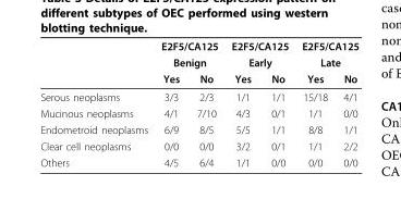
<table><thead><tr><td rowspan="3"></td><td rowspan="2" colspan="2">E2F5/CA125 Benign</td><td rowspan="2" colspan="2">E2F5/CA125 Early</td><td rowspan="2" colspan="2">E2F5/CA125 Late</td></tr><tr></tr><tr><td>Yes</td><td>No</td><td>Yes</td><td>No</td><td>Yes</td><td>No</td></tr></thead><tbody><tr><td>Serous neoplasms</td><td>3/3</td><td>2/3</td><td>1/1</td><td>1/1</td><td>15/18</td><td>4/1</td></tr><tr><td>Mucinous neoplasms</td><td>4/1</td><td>7/10</td><td>4/3</td><td>0/1</td><td>1/1</td><td>0/0</td></tr><tr><td>Endometroid neoplasms</td><td>6/9</td><td>8/5</td><td>5/5</td><td>1/1</td><td>8/8</td><td>1/1</td></tr><tr><td>Clear cell neoplasms</td><td>0/0</td><td>0/0</td><td>3/2</td><td>0/1</td><td>1/1</td><td>2/2</td></tr><tr><td>Others</td><td>4/5</td><td>6/4</td><td>1/1</td><td>0/0</td><td>0/0</td><td>0/0</td></tr></tbody></table>